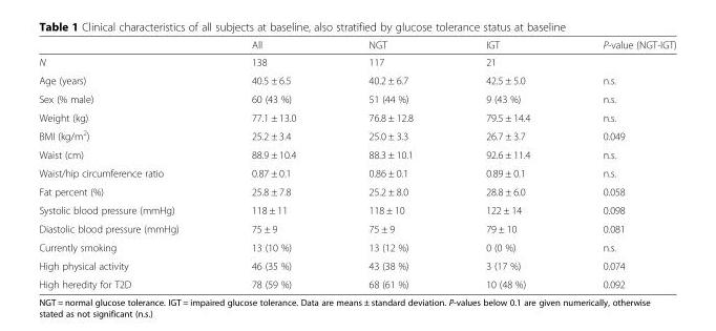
<table><thead><tr><td></td><td>All</td><td>NGT</td><td>IGT</td><td>P-value (NGT-IGT)</td></tr></thead><tbody><tr><td>N</td><td>138</td><td>117</td><td>21</td><td></td></tr><tr><td>Age (years)</td><td>40.5 ± 6.5</td><td>40.2 ± 6.7</td><td>42.5 ± 5.0</td><td>n.s.</td></tr><tr><td>Sex (% male)</td><td>60 (43 %)</td><td>51 (44 %)</td><td>9 (43 %)</td><td>n.s.</td></tr><tr><td>Weight (kg)</td><td>77.1 ± 13.0</td><td>76.8 ± 12.8</td><td>79.5 ± 14.4</td><td>n.s.</td></tr><tr><td>BMI (kg/m<sup>2</sup>)</td><td>25.2 ± 3.4</td><td>25.0 ± 3.3</td><td>26.7 ± 3.7</td><td>0.049</td></tr><tr><td>Waist (cm)</td><td>88.9 ± 10.4</td><td>88.3 ± 10.1</td><td>92.6 ± 11.4</td><td>n.s.</td></tr><tr><td>Waist/hip circumference ratio</td><td>0.87 ± 0.1</td><td>0.86 ± 0.1</td><td>0.89 ± 0.1</td><td>n.s.</td></tr><tr><td>Fat percent (%)</td><td>25.8 ± 7.8</td><td>25.2 ± 8.0</td><td>28.8 ± 6.0</td><td>0.058</td></tr><tr><td>Systolic blood pressure (mmHg)</td><td>118 ± 11</td><td>118 ± 10</td><td>122 ± 14</td><td>0.098</td></tr><tr><td>Diastolic blood pressure (mmHg)</td><td>75 ± 9</td><td>75 ± 9</td><td>79 ± 10</td><td>0.081</td></tr><tr><td>Currently smoking</td><td>13 (10 %)</td><td>13 (12 %)</td><td>0 (0 %)</td><td>n.s.</td></tr><tr><td>High physical activity</td><td>46 (35 %)</td><td>43 (38 %)</td><td>3 (17 %)</td><td>0.074</td></tr><tr><td>High heredity for T2D</td><td>78 (59 %)</td><td>68 (61 %)</td><td>10 (48 %)</td><td>0.092</td></tr></tbody></table>